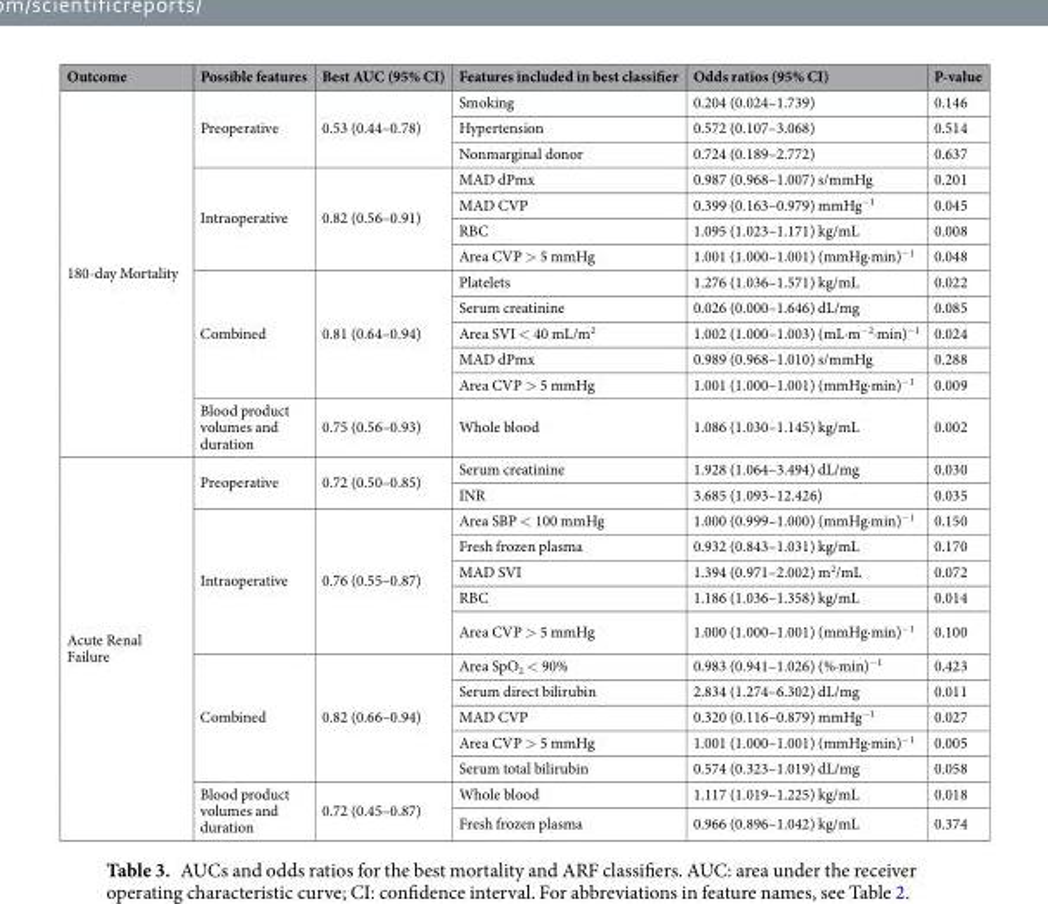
<table><thead><tr><td>Outcome</td><td>Possible features</td><td>Best AUC (95% CI)</td><td>Features included in best classifier</td><td>Odds ratios (95% CI)</td><td>P-value</td></tr></thead><tbody><tr><td rowspan="13">180-day Mortality</td><td rowspan="3">Preoperative</td><td rowspan="3">0.53 (0.44–0.78)</td><td>Smoking</td><td>0.204 (0.024–1.739)</td><td>0.146</td></tr><tr><td>Hypertension</td><td>0.572 (0.107–3.068)</td><td>0.514</td></tr><tr><td>Nonmarginal donor</td><td>0.724 (0.189–2.772)</td><td>0.637</td></tr><tr><td rowspan="4">Intraoperative</td><td rowspan="4">0.82 (0.56–0.91)</td><td>MAD dPmx</td><td>0.987 (0.968–1.007) s/mmHg</td><td>0.201</td></tr><tr><td>MAD CVP</td><td>0.399 (0.163–0.979) mmHg<sup>−1</sup></td><td>0.045</td></tr><tr><td>RBC</td><td>1.095 (1.023–1.171) kg/mL</td><td>0.008</td></tr><tr><td>Area CVP &gt; 5 mmHg</td><td>1.001 (1.000–1.001) (mmHg·min)<sup>−1</sup></td><td>0.048</td></tr><tr><td rowspan="5">Combined</td><td rowspan="5">0.81 (0.64–0.94)</td><td>Platelets</td><td>1.276 (1.036–1.571) kg/mL</td><td>0.022</td></tr><tr><td>Serum creatinine</td><td>0.026 (0.000–1.646) dL/mg</td><td>0.085</td></tr><tr><td>Area SVI &lt; 40 mL/m<sup>2</sup></td><td>1.002 (1.000–1.003) (mL·m<sup>−2</sup>·min)<sup>−1</sup></td><td>0.024</td></tr><tr><td>MAD dPmx</td><td>0.989 (0.968–1.010) s/mmHg</td><td>0.288</td></tr><tr><td>Area CVP &gt; 5 mmHg</td><td>1.001 (1.000–1.001) (mmHg·min)<sup>−1</sup></td><td>0.009</td></tr><tr><td>Blood product volumes and duration</td><td>0.75 (0.56–0.93)</td><td>Whole blood</td><td>1.086 (1.030–1.145) kg/mL</td><td>0.002</td></tr><tr><td rowspan="14">Acute Renal Failure</td><td rowspan="2">Preoperative</td><td rowspan="2">0.72 (0.50–0.85)</td><td>Serum creatinine</td><td>1.928 (1.064–3.494) dL/mg</td><td>0.030</td></tr><tr><td>INR</td><td>3.685 (1.093–12.426)</td><td>0.035</td></tr><tr><td rowspan="5">Intraoperative</td><td rowspan="5">0.76 (0.55–0.87)</td><td>Area SBP &lt; 100 mmHg</td><td>1.000 (0.999–1.000) (mmHg·min)<sup>−1</sup></td><td>0.150</td></tr><tr><td>Fresh frozen plasma</td><td>0.932 (0.843–1.031) kg/mL</td><td>0.170</td></tr><tr><td>MAD SVI</td><td>1.394 (0.971–2.002) m<sup>2</sup>/mL</td><td>0.072</td></tr><tr><td>RBC</td><td>1.186 (1.036–1.358) kg/mL</td><td>0.014</td></tr><tr><td>Area CVP &gt; 5 mmHg</td><td>1.000 (1.000–1.001) (mmHg·min)<sup>−1</sup></td><td>0.100</td></tr><tr><td rowspan="5">Combined</td><td rowspan="5">0.82 (0.66–0.94)</td><td>Area SpO<sub>2</sub> &lt; 90%</td><td>0.983 (0.941–1.026) (%·min)<sup>−1</sup></td><td>0.423</td></tr><tr><td>Serum direct bilirubin</td><td>2.834 (1.274–6.302) dL/mg</td><td>0.011</td></tr><tr><td>MAD CVP</td><td>0.320 (0.116–0.879) mmHg<sup>−1</sup></td><td>0.027</td></tr><tr><td>Area CVP &gt; 5 mmHg</td><td>1.001 (1.000–1.001) (mmHg·min)<sup>−1</sup></td><td>0.005</td></tr><tr><td>Serum total bilirubin</td><td>0.574 (0.323–1.019) dL/mg</td><td>0.058</td></tr><tr><td rowspan="2">Blood product volumes and duration</td><td rowspan="2">0.72 (0.45–0.87)</td><td>Whole blood</td><td>1.117 (1.019–1.225) kg/mL</td><td>0.018</td></tr><tr><td>Fresh frozen plasma</td><td>0.966 (0.896–1.042) kg/mL</td><td>0.374</td></tr></tbody></table>